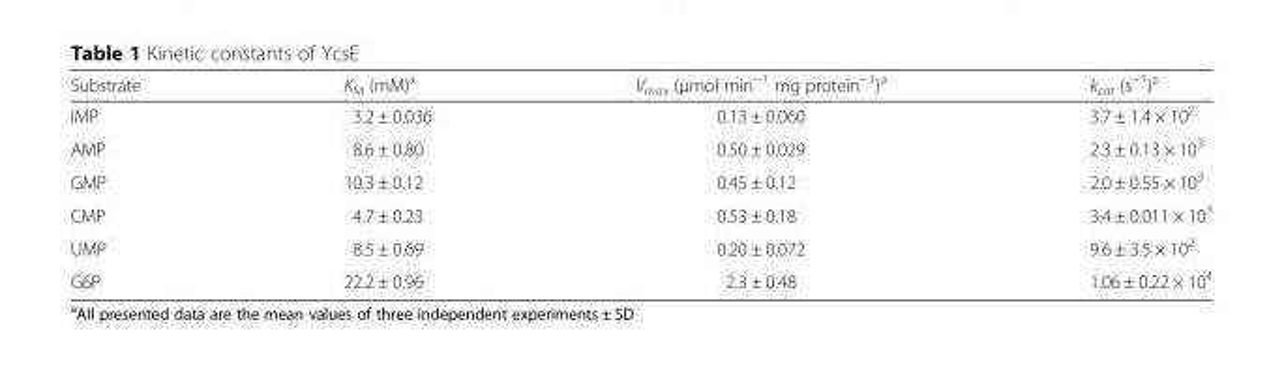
<table><thead><tr><td>Substrate</td><td>K<sub>M</sub> (mM)<sup>a</sup></td><td>V<sub>max</sub> (μmol min<sup>−1</sup> mg protein<sup>−1</sup>)<sup>a</sup></td><td>k<sub>cat</sub> (s<sup>−1</sup>)<sup>a</sup></td></tr></thead><tbody><tr><td>IMP</td><td>3.2 ± 0.036</td><td>0.13 ± 0.060</td><td>3.7 ± 1.4 × 10<sup>2</sup></td></tr><tr><td>AMP</td><td>8.6 ± 0.80</td><td>0.50 ± 0.029</td><td>2.3 ± 0.13 × 10<sup>3</sup></td></tr><tr><td>GMP</td><td>10.3 ± 0.12</td><td>0.45 ± 0.12</td><td>2.0 ± 0.55 × 10<sup>3</sup></td></tr><tr><td>CMP</td><td>4.7 ± 0.23</td><td>0.53 ± 0.18</td><td>3.4 ± 0.011 × 10<sup>3</sup></td></tr><tr><td>UMP</td><td>8.5 ± 0.69</td><td>0.20 ± 0.072</td><td>9.6 ± 3.5 × 10<sup>2</sup></td></tr><tr><td>G6P</td><td>22.2 ± 0.96</td><td>2.3 ± 0.48</td><td>1.06 ± 0.22 × 10<sup>4</sup></td></tr></tbody></table>